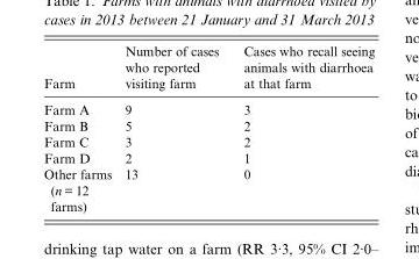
<table><thead><tr><td>Farm</td><td>Number of cases who reported visiting farm</td><td>Cases who recall seeing animals with diarrhoea at that farm</td></tr></thead><tbody><tr><td>Farm A</td><td>9</td><td>3</td></tr><tr><td>Farm B</td><td>5</td><td>2</td></tr><tr><td>Farm C</td><td>3</td><td>2</td></tr><tr><td>Farm D</td><td>2</td><td>1</td></tr><tr><td>Other farms (n = 12 farms)</td><td>13</td><td>0</td></tr></tbody></table>